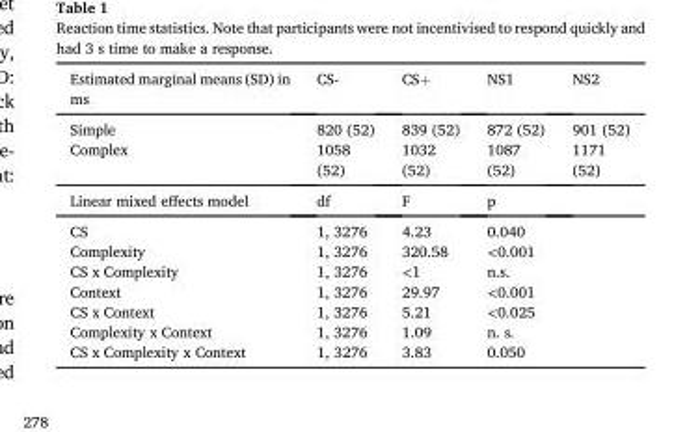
<table><thead><tr><td>Estimated marginal means (SD) in ms</td><td>CS-</td><td>CS+</td><td>NS1</td><td>NS2</td></tr></thead><tbody><tr><td>Simple</td><td>820 (52)</td><td>839 (52)</td><td>872 (52)</td><td>901 (52)</td></tr><tr><td>Complex</td><td>1058 (52)</td><td>1032 (52)</td><td>1087 (52)</td><td>1171 (52)</td></tr><tr><td>Linear mixed effects model</td><td>df</td><td>F</td><td>p</td><td></td></tr><tr><td>CS</td><td>1, 3276</td><td>4.23</td><td>0.040</td><td></td></tr><tr><td>Complexity</td><td>1, 3276</td><td>320.58</td><td>&lt;0.001</td><td></td></tr><tr><td>CS x Complexity</td><td>1, 3276</td><td>&lt;1</td><td>n.s.</td><td></td></tr><tr><td>Context</td><td>1, 3276</td><td>29.97</td><td>&lt;0.001</td><td></td></tr><tr><td>CS x Context</td><td>1, 3276</td><td>5.21</td><td>&lt;0.025</td><td></td></tr><tr><td>Complexity x Context</td><td>1, 3276</td><td>1.09</td><td>n. s.</td><td></td></tr><tr><td>CS x Complexity x Context</td><td>1, 3276</td><td>3.83</td><td>0.050</td><td></td></tr></tbody></table>